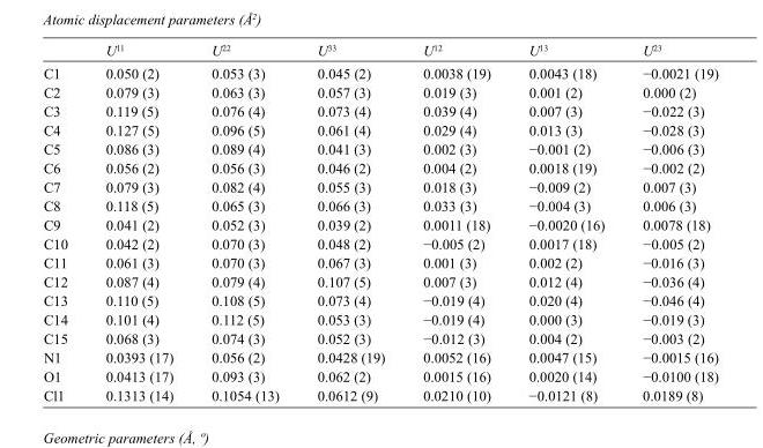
<table><thead><tr><td></td><td>U<sup>11</sup></td><td>U<sup>22</sup></td><td>U<sup>33</sup></td><td>U<sup>12</sup></td><td>U<sup>13</sup></td><td>U<sup>23</sup></td></tr></thead><tbody><tr><td>C1</td><td>0.050 (2)</td><td>0.053 (3)</td><td>0.045 (2)</td><td>0.0038 (19)</td><td>0.0043 (18)</td><td>−0.0021 (19)</td></tr><tr><td>C2</td><td>0.079 (3)</td><td>0.063 (3)</td><td>0.057 (3)</td><td>0.019 (3)</td><td>0.001 (2)</td><td>0.000 (2)</td></tr><tr><td>C3</td><td>0.119 (5)</td><td>0.076 (4)</td><td>0.073 (4)</td><td>0.039 (4)</td><td>0.007 (3)</td><td>−0.022 (3)</td></tr><tr><td>C4</td><td>0.127 (5)</td><td>0.096 (5)</td><td>0.061 (4)</td><td>0.029 (4)</td><td>0.013 (3)</td><td>−0.028 (3)</td></tr><tr><td>C5</td><td>0.086 (3)</td><td>0.089 (4)</td><td>0.041 (3)</td><td>0.002 (3)</td><td>−0.001 (2)</td><td>−0.006 (3)</td></tr><tr><td>C6</td><td>0.056 (2)</td><td>0.056 (3)</td><td>0.046 (2)</td><td>0.004 (2)</td><td>0.0018 (19)</td><td>−0.002 (2)</td></tr><tr><td>C7</td><td>0.079 (3)</td><td>0.082 (4)</td><td>0.055 (3)</td><td>0.018 (3)</td><td>−0.009 (2)</td><td>0.007 (3)</td></tr><tr><td>C8</td><td>0.118 (5)</td><td>0.065 (3)</td><td>0.066 (3)</td><td>0.033 (3)</td><td>−0.004 (3)</td><td>0.006 (3)</td></tr><tr><td>C9</td><td>0.041 (2)</td><td>0.052 (3)</td><td>0.039 (2)</td><td>0.0011 (18)</td><td>−0.0020 (16)</td><td>0.0078 (18)</td></tr><tr><td>C10</td><td>0.042 (2)</td><td>0.070 (3)</td><td>0.048 (2)</td><td>−0.005 (2)</td><td>0.0017 (18)</td><td>−0.005 (2)</td></tr><tr><td>C11</td><td>0.061 (3)</td><td>0.070 (3)</td><td>0.067 (3)</td><td>0.001 (3)</td><td>0.002 (2)</td><td>−0.016 (3)</td></tr><tr><td>C12</td><td>0.087 (4)</td><td>0.079 (4)</td><td>0.107 (5)</td><td>0.007 (3)</td><td>0.012 (4)</td><td>−0.036 (4)</td></tr><tr><td>C13</td><td>0.110 (5)</td><td>0.108 (5)</td><td>0.073 (4)</td><td>−0.019 (4)</td><td>0.020 (4)</td><td>−0.046 (4)</td></tr><tr><td>C14</td><td>0.101 (4)</td><td>0.112 (5)</td><td>0.053 (3)</td><td>−0.019 (4)</td><td>0.000 (3)</td><td>−0.019 (3)</td></tr><tr><td>C15</td><td>0.068 (3)</td><td>0.074 (3)</td><td>0.052 (3)</td><td>−0.012 (3)</td><td>0.004 (2)</td><td>−0.003 (2)</td></tr><tr><td>N1</td><td>0.0393 (17)</td><td>0.056 (2)</td><td>0.0428 (19)</td><td>0.0052 (16)</td><td>0.0047 (15)</td><td>−0.0015 (16)</td></tr><tr><td>O1</td><td>0.0413 (17)</td><td>0.093 (3)</td><td>0.062 (2)</td><td>0.0015 (16)</td><td>0.0020 (14)</td><td>−0.0100 (18)</td></tr><tr><td>Cl1</td><td>0.1313 (14)</td><td>0.1054 (13)</td><td>0.0612 (9)</td><td>0.0210 (10)</td><td>−0.0121 (8)</td><td>0.0189 (8)</td></tr></tbody></table>